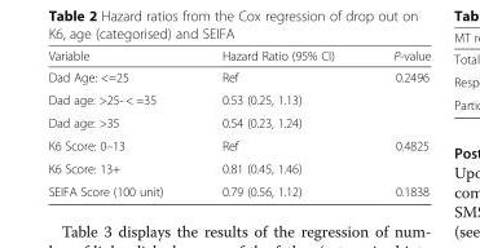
<table><thead><tr><td>Variable</td><td>Hazard Ratio (95% CI)</td><td>P-value</td></tr></thead><tbody><tr><td>Dad Age: &lt;=25</td><td>Ref</td><td rowspan="3">0.2496</td></tr><tr><td>Dad age: &gt;25- &lt; =35</td><td>0.53 (0.25, 1.13)</td></tr><tr><td>Dad age: &gt;35</td><td>0.54 (0.23, 1.24)</td></tr><tr><td>K6 Score: 0–13</td><td>Ref</td><td rowspan="2">0.4825</td></tr><tr><td>K6 Score: 13+</td><td>0.81 (0.45, 1.46)</td></tr><tr><td>SEIFA Score (100 unit)</td><td>0.79 (0.56, 1.12)</td><td>0.1838</td></tr></tbody></table>